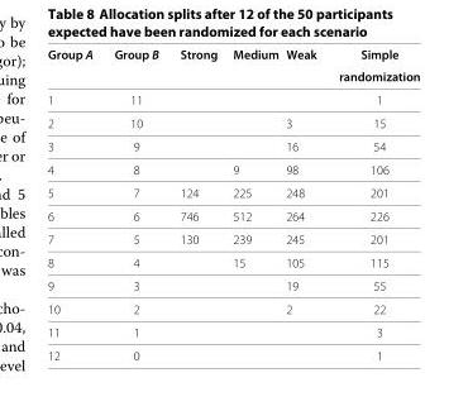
<table><thead><tr><td rowspan="2">Group A</td><td rowspan="2">Group B</td><td rowspan="2">Strong</td><td rowspan="2">Medium</td><td rowspan="2">Weak</td><td rowspan="2">Simple randomization</td></tr><tr></tr></thead><tbody><tr><td>1</td><td>11</td><td></td><td></td><td></td><td>1</td></tr><tr><td>2</td><td>10</td><td></td><td></td><td>3</td><td>15</td></tr><tr><td>3</td><td>9</td><td></td><td></td><td>16</td><td>54</td></tr><tr><td>4</td><td>8</td><td></td><td>9</td><td>98</td><td>106</td></tr><tr><td>5</td><td>7</td><td>124</td><td>225</td><td>248</td><td>201</td></tr><tr><td>6</td><td>6</td><td>746</td><td>512</td><td>264</td><td>226</td></tr><tr><td>7</td><td>5</td><td>130</td><td>239</td><td>245</td><td>201</td></tr><tr><td>8</td><td>4</td><td></td><td>15</td><td>105</td><td>115</td></tr><tr><td>9</td><td>3</td><td></td><td></td><td>19</td><td>55</td></tr><tr><td>10</td><td>2</td><td></td><td></td><td>2</td><td>22</td></tr><tr><td>11</td><td>1</td><td></td><td></td><td></td><td>3</td></tr><tr><td>12</td><td>0</td><td></td><td></td><td></td><td>1</td></tr></tbody></table>